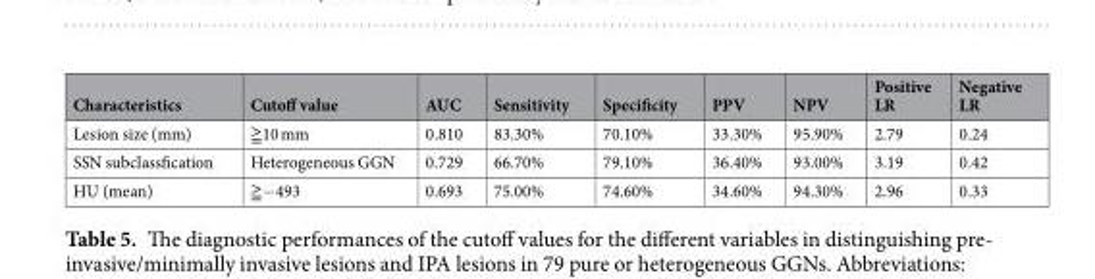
<table><thead><tr><td>Characteristics</td><td>Cutoff value</td><td>AUC</td><td>Sensitivity</td><td>Specificity</td><td>PPV</td><td>NPV</td><td>Positive LR</td><td>Negative LR</td></tr></thead><tbody><tr><td>Lesion size (mm)</td><td>≧10 mm</td><td>0.810</td><td>83.30%</td><td>70.10%</td><td>33.30%</td><td>95.90%</td><td>2.79</td><td>0.24</td></tr><tr><td>SSN subclassfication</td><td>Heterogeneous GGN</td><td>0.729</td><td>66.70%</td><td>79.10%</td><td>36.40%</td><td>93.00%</td><td>3.19</td><td>0.42</td></tr><tr><td>HU (mean)</td><td>≧−493</td><td>0.693</td><td>75.00%</td><td>74.60%</td><td>34.60%</td><td>94.30%</td><td>2.96</td><td>0.33</td></tr></tbody></table>